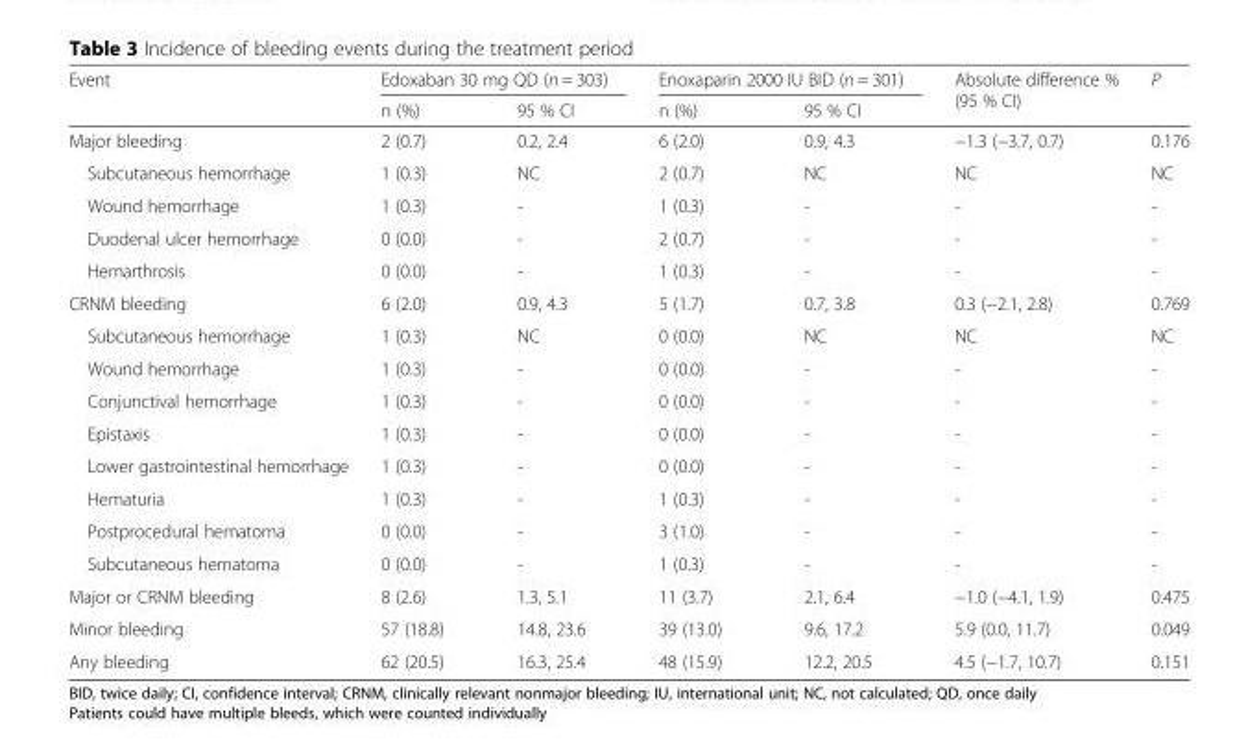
<table><thead><tr><td rowspan="2">Event</td><td colspan="2">Edoxaban 30 mg QD (n = 303)</td><td colspan="2">Enoxaparin 2000 IU BID (n = 301)</td><td rowspan="2">Absolute difference % (95 % CI)</td><td rowspan="2">P</td></tr><tr><td>n (%)</td><td>95 % CI</td><td>n (%)</td><td>95 % CI</td></tr></thead><tbody><tr><td>Major bleeding</td><td>2 (0.7)</td><td>0.2, 2.4</td><td>6 (2.0)</td><td>0.9, 4.3</td><td>−1.3 (−3.7, 0.7)</td><td>0.176</td></tr><tr><td>Subcutaneous hemorrhage</td><td>1 (0.3)</td><td>NC</td><td>2 (0.7)</td><td>NC</td><td>NC</td><td>NC</td></tr><tr><td>Wound hemorrhage</td><td>1 (0.3)</td><td>-</td><td>1 (0.3)</td><td>-</td><td>-</td><td>-</td></tr><tr><td>Duodenal ulcer hemorrhage</td><td>0 (0.0)</td><td>-</td><td>2 (0.7)</td><td>-</td><td>-</td><td>-</td></tr><tr><td>Hemarthrosis</td><td>0 (0.0)</td><td>-</td><td>1 (0.3)</td><td>-</td><td>-</td><td>-</td></tr><tr><td>CRNM bleeding</td><td>6 (2.0)</td><td>0.9, 4.3</td><td>5 (1.7)</td><td>0.7, 3.8</td><td>0.3 (−2.1, 2.8)</td><td>0.769</td></tr><tr><td>Subcutaneous hemorrhage</td><td>1 (0.3)</td><td>NC</td><td>0 (0.0)</td><td>NC</td><td>NC</td><td>NC</td></tr><tr><td>Wound hemorrhage</td><td>1 (0.3)</td><td>-</td><td>0 (0.0)</td><td>-</td><td>-</td><td>-</td></tr><tr><td>Conjunctival hemorrhage</td><td>1 (0.3)</td><td>-</td><td>0 (0.0)</td><td>-</td><td>-</td><td>-</td></tr><tr><td>Epistaxis</td><td>1 (0.3)</td><td>-</td><td>0 (0.0)</td><td>-</td><td>-</td><td>-</td></tr><tr><td>Lower gastrointestinal hemorrhage</td><td>1 (0.3)</td><td>-</td><td>0 (0.0)</td><td>-</td><td>-</td><td>-</td></tr><tr><td>Hematuria</td><td>1 (0.3)</td><td>-</td><td>1 (0.3)</td><td>-</td><td>-</td><td>-</td></tr><tr><td>Postprocedural hematoma</td><td>0 (0.0)</td><td>-</td><td>3 (1.0)</td><td>-</td><td>-</td><td>-</td></tr><tr><td>Subcutaneous hematoma</td><td>0 (0.0)</td><td>-</td><td>1 (0.3)</td><td>-</td><td>-</td><td>-</td></tr><tr><td>Major or CRNM bleeding</td><td>8 (2.6)</td><td>1.3, 5.1</td><td>11 (3.7)</td><td>2.1, 6.4</td><td>−1.0 (−4.1, 1.9)</td><td>0.475</td></tr><tr><td>Minor bleeding</td><td>57 (18.8)</td><td>14.8, 23.6</td><td>39 (13.0)</td><td>9.6, 17.2</td><td>5.9 (0.0, 11.7)</td><td>0.049</td></tr><tr><td>Any bleeding</td><td>62 (20.5)</td><td>16.3, 25.4</td><td>48 (15.9)</td><td>12.2, 20.5</td><td>4.5 (−1.7, 10.7)</td><td>0.151</td></tr></tbody></table>